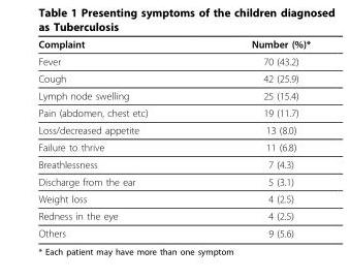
<table><thead><tr><td>Complaint</td><td>Number (%)*</td></tr></thead><tbody><tr><td>Fever</td><td>70 (43.2)</td></tr><tr><td>Cough</td><td>42 (25.9)</td></tr><tr><td>Lymph node swelling</td><td>25 (15.4)</td></tr><tr><td>Pain (abdomen, chest etc)</td><td>19 (11.7)</td></tr><tr><td>Loss/decreased appetite</td><td>13 (8.0)</td></tr><tr><td>Failure to thrive</td><td>11 (6.8)</td></tr><tr><td>Breathlessness</td><td>7 (4.3)</td></tr><tr><td>Discharge from the ear</td><td>5 (3.1)</td></tr><tr><td>Weight loss</td><td>4 (2.5)</td></tr><tr><td>Redness in the eye</td><td>4 (2.5)</td></tr><tr><td>Others</td><td>9 (5.6)</td></tr></tbody></table>